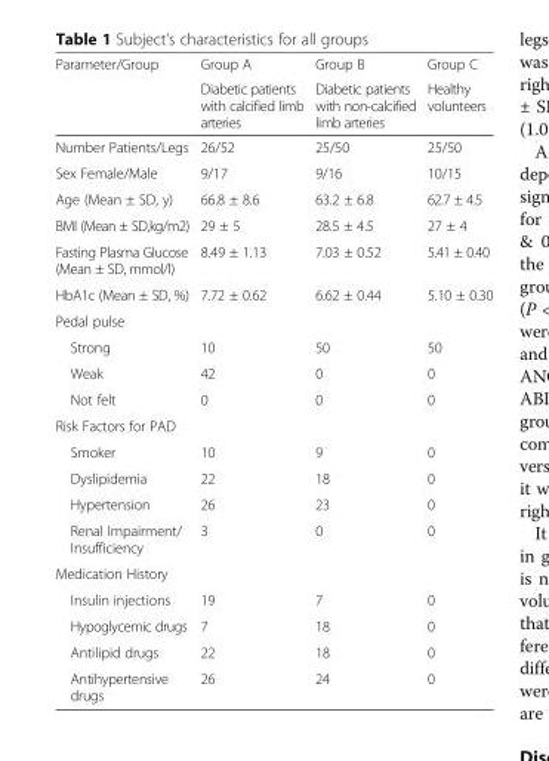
<table><thead><tr><td rowspan="2">Parameter/Group</td><td rowspan="2">Group A Diabetic patients with calcified limb arteries</td><td rowspan="2">Group B Diabetic patients with non-calcified limb arteries</td><td rowspan="2">Group C Healthy volunteers</td></tr><tr></tr></thead><tbody><tr><td>Number Patients/Legs</td><td>26/52</td><td>25/50</td><td>25/50</td></tr><tr><td>Sex Female/Male</td><td>9/17</td><td>9/16</td><td>10/15</td></tr><tr><td>Age (Mean ± SD, y)</td><td>66.8 ± 8.6</td><td>63.2 ± 6.8</td><td>62.7 ± 4.5</td></tr><tr><td>BMI (Mean ± SD,kg/m2)</td><td>29 ± 5</td><td>28.5 ± 4.5</td><td>27 ± 4</td></tr><tr><td>Fasting Plasma Glucose (Mean ± SD, mmol/l)</td><td>8.49 ± 1.13</td><td>7.03 ± 0.52</td><td>5.41 ± 0.40</td></tr><tr><td>HbA1c (Mean ± SD, %)</td><td>7.72 ± 0.62</td><td>6.62 ± 0.44</td><td>5.10 ± 0.30</td></tr><tr><td colspan="4">Pedal pulse</td></tr><tr><td>Strong</td><td>10</td><td>50</td><td>50</td></tr><tr><td>Weak</td><td>42</td><td>0</td><td>0</td></tr><tr><td>Not felt</td><td>0</td><td>0</td><td>0</td></tr><tr><td colspan="4">Risk Factors for PAD</td></tr><tr><td>Smoker</td><td>10</td><td>9</td><td>0</td></tr><tr><td>Dyslipidemia</td><td>22</td><td>18</td><td>0</td></tr><tr><td>Hypertension</td><td>26</td><td>23</td><td>0</td></tr><tr><td>Renal Impairment/ Insufficiency</td><td>3</td><td>0</td><td>0</td></tr><tr><td colspan="4">Medication History</td></tr><tr><td>Insulin injections</td><td>19</td><td>7</td><td>0</td></tr><tr><td>Hypoglycemic drugs</td><td>7</td><td>18</td><td>0</td></tr><tr><td>Antilipid drugs</td><td>22</td><td>18</td><td>0</td></tr><tr><td>Antihypertensive drugs</td><td>26</td><td>24</td><td>0</td></tr></tbody></table>